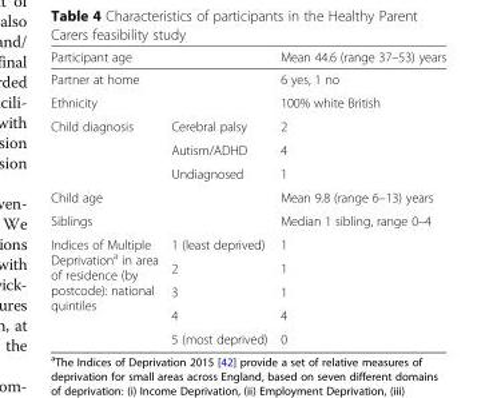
<table><thead><tr><td>Participant age</td><td></td><td>Mean 44.6 (range 37–53) years</td></tr></thead><tbody><tr><td>Partner at home</td><td></td><td>6 yes, 1 no</td></tr><tr><td>Ethnicity</td><td></td><td>100% white British</td></tr><tr><td rowspan="3">Child diagnosis</td><td>Cerebral palsy</td><td>2</td></tr><tr><td>Autism/ADHD</td><td>4</td></tr><tr><td>Undiagnosed</td><td>1</td></tr><tr><td>Child age</td><td></td><td>Mean 9.8 (range 6–13) years</td></tr><tr><td>Siblings</td><td></td><td>Median 1 sibling, range 0–4</td></tr><tr><td rowspan="5">Indices of Multiple Deprivation<sup>a</sup> in area of residence (by postcode): national quintiles</td><td>1 (least deprived)</td><td>1</td></tr><tr><td>2</td><td>1</td></tr><tr><td>3</td><td>1</td></tr><tr><td>4</td><td>4</td></tr><tr><td>5 (most deprived)</td><td>0</td></tr></tbody></table>